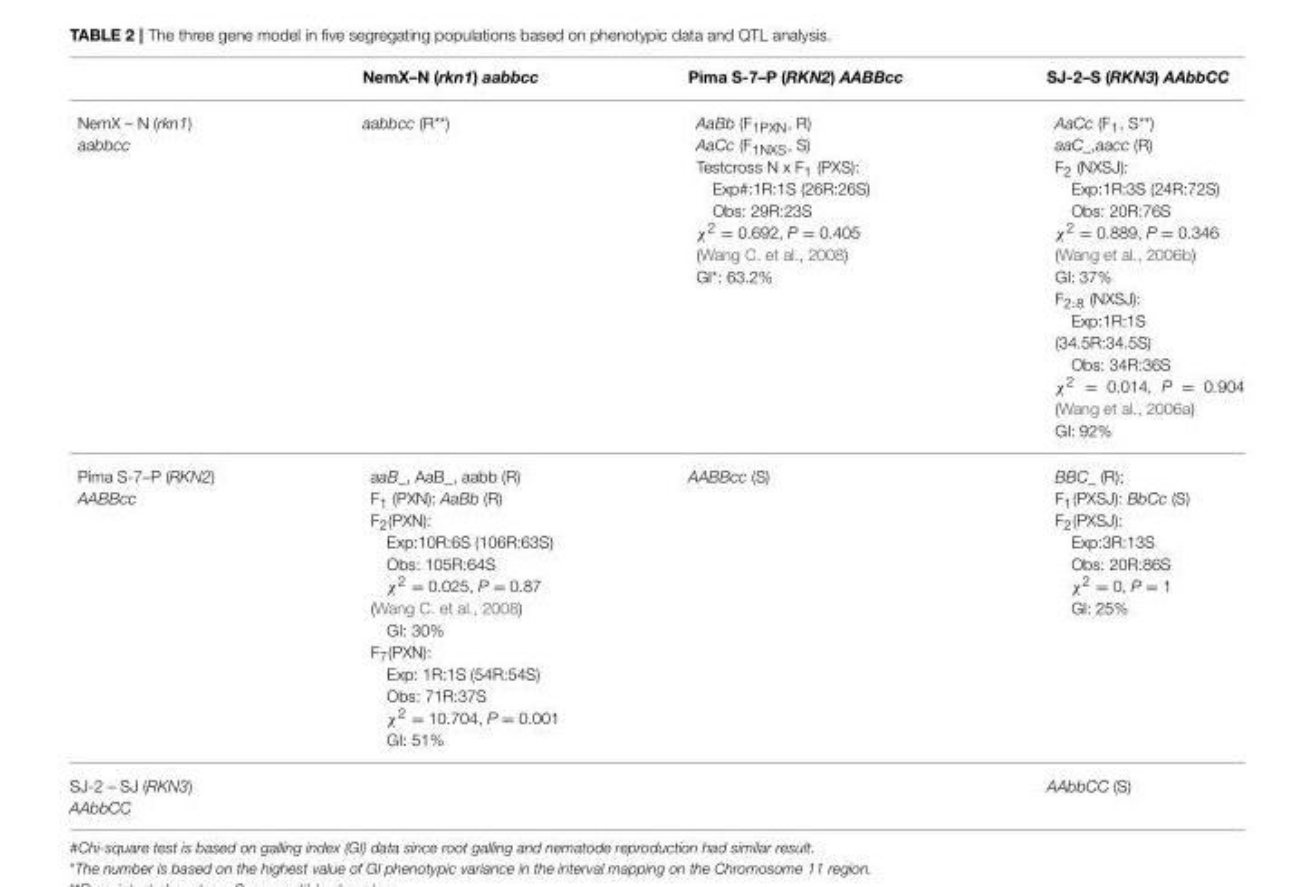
<table><thead><tr><td></td><td>NemX–N (rkn1) aabbcc</td><td>Pima S-7–P (RKN2) AABBcc</td><td>SJ-2–S (RKN3) AAbbCC</td></tr></thead><tbody><tr><td>NemX – N (rkn1) aabbcc</td><td>aabbcc (R**)</td><td>AaBb (F<sub>1PXN</sub>, R) AaCc (F<sub>1NXS</sub>, S) Testcross N x F<sub>1</sub> (PXS): Exp<sup>#</sup>:1R:1S (26R:26S) Obs: 29R:23S χ<sup>2</sup> = 0.692, P = 0.405 (Wang C. et al., 2008) GI*: 63.2%</td><td>AaCc (F<sub>1</sub>, S**) aaC_,aacc (R) F<sub>2</sub> (NXSJ): Exp:1R:3S (24R:72S) Obs: 20R:76S χ<sup>2</sup> = 0.889, P = 0.346 (Wang et al., 2006b) GI: 37% F<sub>2:8</sub> (NXSJ): Exp:1R:1S (34.5R:34.5S) Obs: 34R:36S χ<sup>2</sup> = 0.014, P = 0.904 (Wang et al., 2006a) GI: 92%</td></tr><tr><td>Pima S-7–P (RKN2) AABBcc</td><td>aaB_, AaB_, aabb (R) F<sub>1</sub> (PXN): AaBb (R) F<sub>2</sub>(PXN): Exp:10R:6S (106R:63S) Obs: 105R:64S χ<sup>2</sup> = 0.025, P = 0.87 (Wang C. et al., 2008) GI: 30% F<sub>7</sub>(PXN): Exp: 1R:1S (54R:54S) Obs: 71R:37S χ<sup>2</sup> = 10.704, P = 0.001 GI: 51%</td><td>AABBcc (S)</td><td>BBC_ (R); F<sub>1</sub>(PXSJ): BbCc (S) F<sub>2</sub>(PXSJ): Exp:3R:13S Obs: 20R:86S χ<sup>2</sup> = 0, P = 1 GI: 25%</td></tr><tr><td>SJ-2 – SJ (RKN3) AAbbCC</td><td></td><td></td><td>AAbbCC (S)</td></tr></tbody></table>